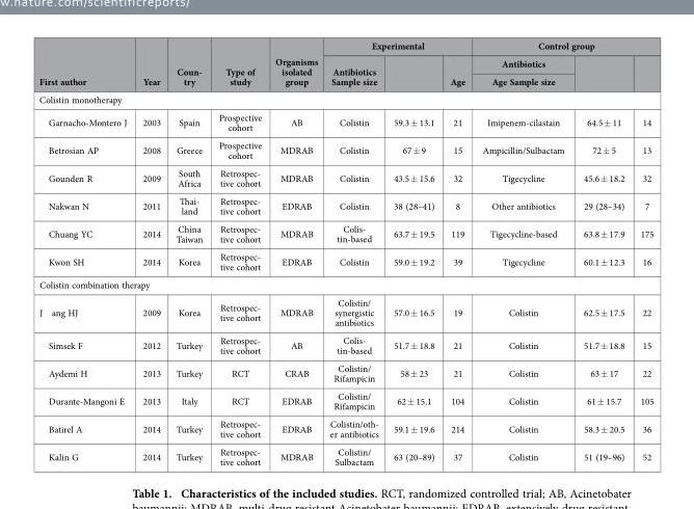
<table><thead><tr><td rowspan="3">First author</td><td rowspan="3">Year</td><td rowspan="3">Coun- try</td><td rowspan="3">Type of study</td><td rowspan="3">Organisms isolated group</td><td colspan="3">Experimental</td><td colspan="3">Control group</td></tr><tr><td rowspan="2">Antibiotics Sample size</td><td rowspan="2"></td><td rowspan="2">Age</td><td rowspan="2">Antibiotics Age Sample size</td><td rowspan="2"></td><td rowspan="2"></td></tr><tr></tr></thead><tbody><tr><td colspan="11">Colistin monotherapy</td></tr><tr><td>Garnacho-Montero J</td><td>2003</td><td>Spain</td><td>Prospective cohort</td><td>AB</td><td>Colistin</td><td>59.3 ± 13.1</td><td>21</td><td>Imipenem-cilastain</td><td>64.5 ± 11</td><td>14</td></tr><tr><td>Betrosian AP</td><td>2008</td><td>Greece</td><td>Prospective cohort</td><td>MDRAB</td><td>Colistin</td><td>67 ± 9</td><td>15</td><td>Ampicillin/Sulbactam</td><td>72 ± 5</td><td>13</td></tr><tr><td>Gounden R</td><td>2009</td><td>South Africa</td><td>Retrospec- tive cohort</td><td>MDRAB</td><td>Colistin</td><td>43.5 ± 15.6</td><td>32</td><td>Tigecycline</td><td>45.6 ± 18.2</td><td>32</td></tr><tr><td>Nakwan N</td><td>2011</td><td>Thai- land</td><td>Retrospec- tive cohort</td><td>EDRAB</td><td>Colistin</td><td>38 (28–41)</td><td>8</td><td>Other antibiotics</td><td>29 (28–34)</td><td>7</td></tr><tr><td>Chuang YC</td><td>2014</td><td>China Taiwan</td><td>Retrospec- tive cohort</td><td>MDRAB</td><td>Colis- tin-based</td><td>63.7 ± 19.5</td><td>119</td><td>Tigecycline-based</td><td>63.8 ± 17.9</td><td>175</td></tr><tr><td>Kwon SH</td><td>2014</td><td>Korea</td><td>Retrospec- tive cohort</td><td>EDRAB</td><td>Colistin</td><td>59.0 ± 19.2</td><td>39</td><td>Tigecycline</td><td>60.1 ± 12.3</td><td>16</td></tr><tr><td colspan="11">Colistin combination therapy</td></tr><tr><td>J ang HJ</td><td>2009</td><td>Korea</td><td>Retrospec- tive cohort</td><td>MDRAB</td><td>Colistin/ synergistic antibiotics</td><td>57.0 ± 16.5</td><td>19</td><td>Colistin</td><td>62.5 ± 17.5</td><td>22</td></tr><tr><td>Simsek F</td><td>2012</td><td>Turkey</td><td>Retrospec- tive cohort</td><td>AB</td><td>Colis- tin-based</td><td>51.7 ± 18.8</td><td>21</td><td>Colistin</td><td>51.7 ± 18.8</td><td>15</td></tr><tr><td>Aydemi H</td><td>2013</td><td>Turkey</td><td>RCT</td><td>CRAB</td><td>Colistin/ Rifampicin</td><td>58 ± 23</td><td>21</td><td>Colistin</td><td>63 ± 17</td><td>22</td></tr><tr><td>Durante-Mangoni E</td><td>2013</td><td>Italy</td><td>RCT</td><td>EDRAB</td><td>Colistin/ Rifampicin</td><td>62 ± 15.1</td><td>104</td><td>Colistin</td><td>61 ± 15.7</td><td>105</td></tr><tr><td>Batirel A</td><td>2014</td><td>Turkey</td><td>Retrospec- tive cohort</td><td>EDRAB</td><td>Colistin/oth- er antibiotics</td><td>59.1 ± 19.6</td><td>214</td><td>Colistin</td><td>58.3 ± 20.5</td><td>36</td></tr><tr><td>Kalin G</td><td>2014</td><td>Turkey</td><td>Retrospec- tive cohort</td><td>MDRAB</td><td>Colistin/ Sulbactam</td><td>63 (20–89)</td><td>37</td><td>Colistin</td><td>51 (19–96)</td><td>52</td></tr></tbody></table>